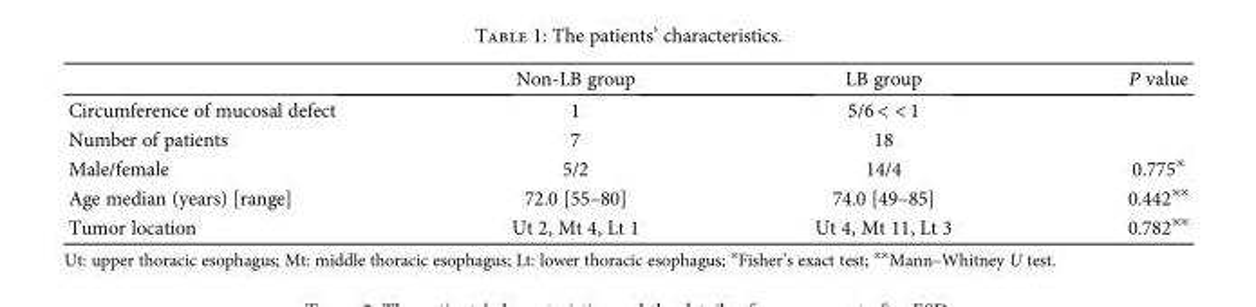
<table><thead><tr><td></td><td>Non-LB group</td><td>LB group</td><td>P value</td></tr></thead><tbody><tr><td>Circumference of mucosal defect</td><td>1</td><td>5/6 &lt; &lt; 1</td><td></td></tr><tr><td>Number of patients</td><td>7</td><td>18</td><td></td></tr><tr><td>Male/female</td><td>5/2</td><td>14/4</td><td>0.775<sup>※</sup></td></tr><tr><td>Age median (years) [range]</td><td>72.0 [55–80]</td><td>74.0 [49–85]</td><td>0.442<sup>※※</sup></td></tr><tr><td>Tumor location</td><td>Ut 2, Mt 4, Lt 1</td><td>Ut 4, Mt 11, Lt 3</td><td>0.782<sup>※※</sup></td></tr></tbody></table>